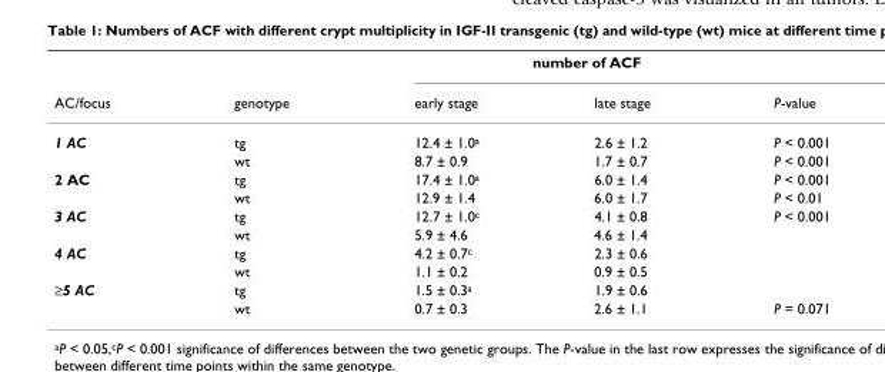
<table><thead><tr><td rowspan="2">AC/focus</td><td rowspan="2">genotype</td><td colspan="2">number of ACF</td><td rowspan="2">P-value</td></tr><tr><td>early stage</td><td>late stage</td></tr></thead><tbody><tr><td rowspan="2">1 AC</td><td>tg</td><td>12.4 ± 1.0<sup>a</sup></td><td>2.6 ± 1.2</td><td>P &lt; 0.001</td></tr><tr><td>wt</td><td>8.7 ± 0.9</td><td>1.7 ± 0.7</td><td>P &lt; 0.001</td></tr><tr><td rowspan="2">2 AC</td><td>tg</td><td>17.4 ± 1.0<sup>a</sup></td><td>6.0 ± 1.4</td><td>P &lt; 0.001</td></tr><tr><td>wt</td><td>12.9 ± 1.4</td><td>6.0 ± 1.7</td><td>P &lt; 0.01</td></tr><tr><td rowspan="2">3 AC</td><td>tg</td><td>12.7 ± 1.0<sup>c</sup></td><td>4.1 ± 0.8</td><td>P &lt; 0.001</td></tr><tr><td>wt</td><td>5.9 ± 4.6</td><td>4.6 ± 1.4</td><td></td></tr><tr><td rowspan="2">4 AC</td><td>tg</td><td>4.2 ± 0.7<sup>c</sup></td><td>2.3 ± 0.6</td><td></td></tr><tr><td>wt</td><td>1.1 ± 0.2</td><td>0.9 ± 0.5</td><td></td></tr><tr><td rowspan="2">≥5 AC</td><td>tg</td><td>1.5 ± 0.3<sup>a</sup></td><td>1.9 ± 0.6</td><td></td></tr><tr><td>wt</td><td>0.7 ± 0.3</td><td>2.6 ± 1.1</td><td>P = 0.071</td></tr></tbody></table>